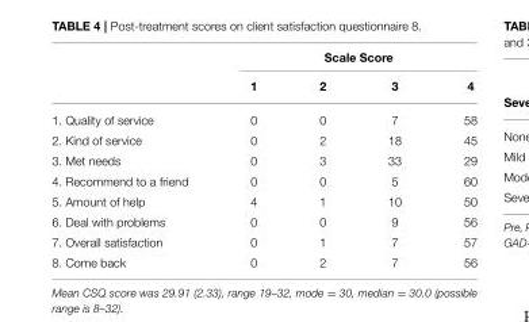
<table><thead><tr><td rowspan="2"></td><td colspan="4">Scale Score</td></tr><tr><td>1</td><td>2</td><td>3</td><td>4</td></tr></thead><tbody><tr><td>1. Quality of service</td><td>0</td><td>0</td><td>7</td><td>58</td></tr><tr><td>2. Kind of service</td><td>0</td><td>2</td><td>18</td><td>45</td></tr><tr><td>3. Met needs</td><td>0</td><td>3</td><td>33</td><td>29</td></tr><tr><td>4. Recommend to a friend</td><td>0</td><td>0</td><td>5</td><td>60</td></tr><tr><td>5. Amount of help</td><td>4</td><td>1</td><td>10</td><td>50</td></tr><tr><td>6. Deal with problems</td><td>0</td><td>0</td><td>9</td><td>56</td></tr><tr><td>7. Overall satisfaction</td><td>0</td><td>1</td><td>7</td><td>57</td></tr><tr><td>8. Come back</td><td>0</td><td>2</td><td>7</td><td>56</td></tr></tbody></table>